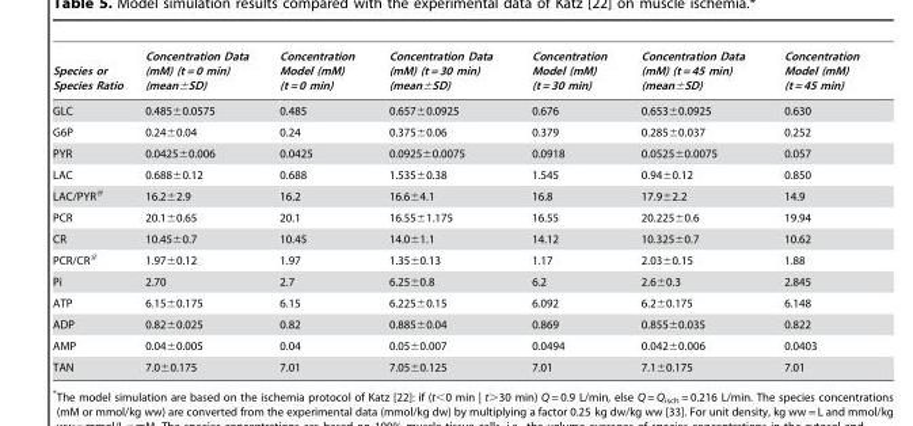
<table><thead><tr><td>Species or Species Ratio</td><td>Concentration Data (mM) (t = 0 min) (mean±SD)</td><td>Concentration Model (mM) (t = 0 min)</td><td>Concentration Data (mM) (t = 30 min) (mean±SD)</td><td>Concentration Model (mM) (t = 30 min)</td><td>Concentration Data (mM) (t = 45 min) (mean±SD)</td><td>Concentration Model (mM) (t = 45 min)</td></tr></thead><tbody><tr><td>GLC</td><td>0.485±0.0575</td><td>0.485</td><td>0.657±0.0925</td><td>0.676</td><td>0.653±0.0925</td><td>0.630</td></tr><tr><td>G6P</td><td>0.24±0.04</td><td>0.24</td><td>0.375±0.06</td><td>0.379</td><td>0.285±0.037</td><td>0.252</td></tr><tr><td>PYR</td><td>0.0425±0.006</td><td>0.0425</td><td>0.0925±0.0075</td><td>0.0918</td><td>0.0525±0.0075</td><td>0.057</td></tr><tr><td>LAC</td><td>0.688±0.12</td><td>0.688</td><td>1.535±0.38</td><td>1.545</td><td>0.94±0.12</td><td>0.850</td></tr><tr><td>LAC/PYR#</td><td>16.2±2.9</td><td>16.2</td><td>16.6±4.1</td><td>16.8</td><td>17.9±2.2</td><td>14.9</td></tr><tr><td>PCR</td><td>20.1±0.65</td><td>20.1</td><td>16.55±1.175</td><td>16.55</td><td>20.225±0.6</td><td>19.94</td></tr><tr><td>CR</td><td>10.45±0.7</td><td>10.45</td><td>14.0±1.1</td><td>14.12</td><td>10.325±0.7</td><td>10.62</td></tr><tr><td>PCR/CR#</td><td>1.97±0.12</td><td>1.97</td><td>1.35±0.13</td><td>1.17</td><td>2.03±0.15</td><td>1.88</td></tr><tr><td>Pi</td><td>2.70</td><td>2.7</td><td>6.25±0.8</td><td>6.2</td><td>2.6±0.3</td><td>2.845</td></tr><tr><td>ATP</td><td>6.15±0.175</td><td>6.15</td><td>6.225±0.15</td><td>6.092</td><td>6.2±0.175</td><td>6.148</td></tr><tr><td>ADP</td><td>0.82±0.025</td><td>0.82</td><td>0.885±0.04</td><td>0.869</td><td>0.855±0.035</td><td>0.822</td></tr><tr><td>AMP</td><td>0.04±0.005</td><td>0.04</td><td>0.05±0.007</td><td>0.0494</td><td>0.042±0.006</td><td>0.0403</td></tr><tr><td>TAN</td><td>7.0±0.175</td><td>7.01</td><td>7.05±0.125</td><td>7.01</td><td>7.1±0.175</td><td>7.01</td></tr></tbody></table>